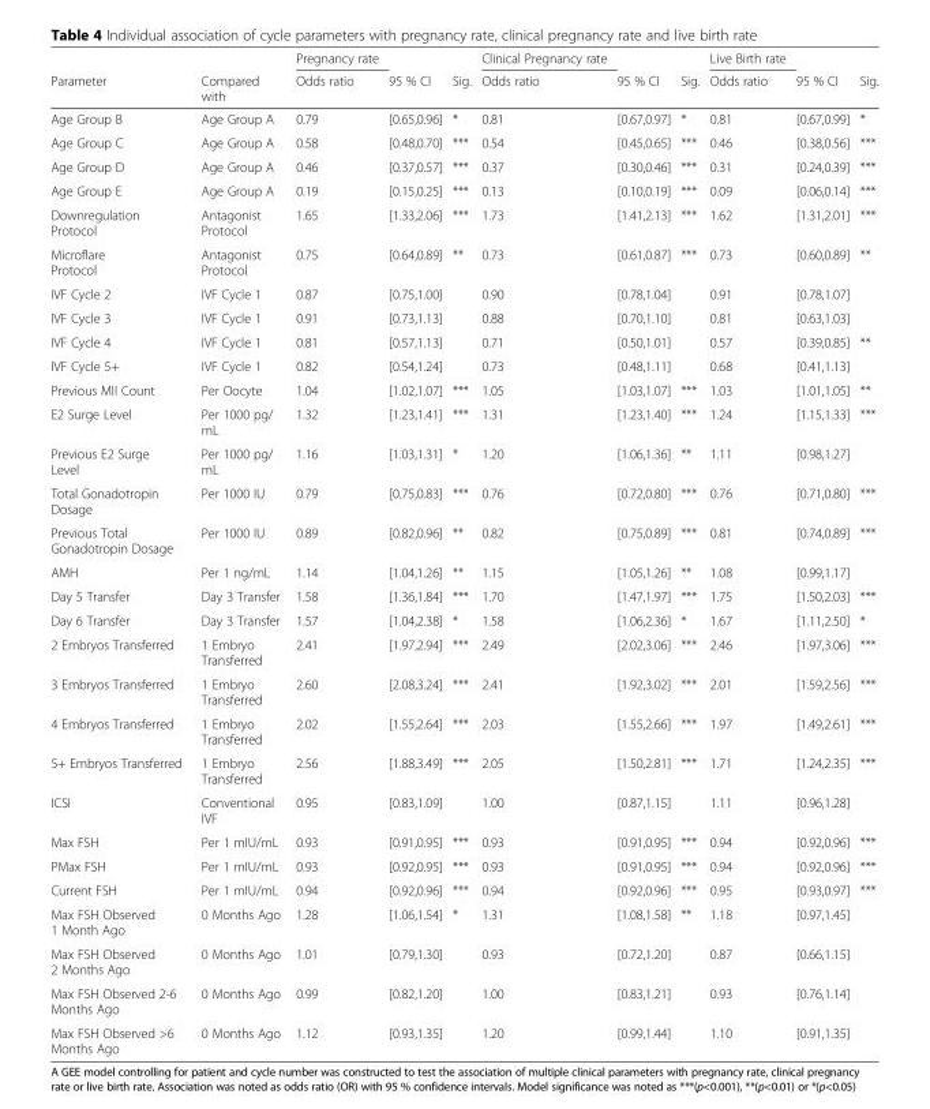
<table><thead><tr><td rowspan="2">Parameter</td><td rowspan="2">Compared with</td><td rowspan="2">Pregnancy rate Odds ratio</td><td rowspan="2">95 % CI</td><td rowspan="2">Sig.</td><td rowspan="2">Clinical Pregnancy rate Odds ratio</td><td rowspan="2">95 % CI</td><td rowspan="2">Sig.</td><td rowspan="2">Live Birth rate Odds ratio</td><td rowspan="2">95 % CI</td><td rowspan="2">Sig.</td></tr><tr></tr></thead><tbody><tr><td>Age Group B</td><td>Age Group A</td><td>0.79</td><td>[0.65,0.96]</td><td>*</td><td>0.81</td><td>[0.67,0.97]</td><td>*</td><td>0.81</td><td>[0.67,0.99]</td><td>*</td></tr><tr><td>Age Group C</td><td>Age Group A</td><td>0.58</td><td>[0.48,0.70]</td><td>***</td><td>0.54</td><td>[0.45,0.65]</td><td>***</td><td>0.46</td><td>[0.38,0.56]</td><td>***</td></tr><tr><td>Age Group D</td><td>Age Group A</td><td>0.46</td><td>[0.37,0.57]</td><td>***</td><td>0.37</td><td>[0.30,0.46]</td><td>***</td><td>0.31</td><td>[0.24,0.39]</td><td>***</td></tr><tr><td>Age Group E</td><td>Age Group A</td><td>0.19</td><td>[0.15,0.25]</td><td>***</td><td>0.13</td><td>[0.10,0.19]</td><td>***</td><td>0.09</td><td>[0.06,0.14]</td><td>***</td></tr><tr><td>Downregulation Protocol</td><td>Antagonist Protocol</td><td>1.65</td><td>[1.33,2.06]</td><td>***</td><td>1.73</td><td>[1.41,2.13]</td><td>***</td><td>1.62</td><td>[1.31,2.01]</td><td>***</td></tr><tr><td>Microflare Protocol</td><td>Antagonist Protocol</td><td>0.75</td><td>[0.64,0.89]</td><td>**</td><td>0.73</td><td>[0.61,0.87]</td><td>***</td><td>0.73</td><td>[0.60,0.89]</td><td>**</td></tr><tr><td>IVF Cycle 2</td><td>IVF Cycle 1</td><td>0.87</td><td>[0.75,1.00]</td><td></td><td>0.90</td><td>[0.78,1.04]</td><td></td><td>0.91</td><td>[0.78,1.07]</td><td></td></tr><tr><td>IVF Cycle 3</td><td>IVF Cycle 1</td><td>0.91</td><td>[0.73,1.13]</td><td></td><td>0.88</td><td>[0.70,1.10]</td><td></td><td>0.81</td><td>[0.63,1.03]</td><td></td></tr><tr><td>IVF Cycle 4</td><td>IVF Cycle 1</td><td>0.81</td><td>[0.57,1.13]</td><td></td><td>0.71</td><td>[0.50,1.01]</td><td></td><td>0.57</td><td>[0.39,0.85]</td><td>**</td></tr><tr><td>IVF Cycle 5+</td><td>IVF Cycle 1</td><td>0.82</td><td>[0.54,1.24]</td><td></td><td>0.73</td><td>[0.48,1.11]</td><td></td><td>0.68</td><td>[0.41,1.13]</td><td></td></tr><tr><td>Previous MII Count</td><td>Per Oocyte</td><td>1.04</td><td>[1.02,1.07]</td><td>***</td><td>1.05</td><td>[1.03,1.07]</td><td>***</td><td>1.03</td><td>[1.01,1.05]</td><td>**</td></tr><tr><td>E2 Surge Level</td><td>Per 1000 pg/ mL</td><td>1.32</td><td>[1.23,1.41]</td><td>***</td><td>1.31</td><td>[1.23,1.40]</td><td>***</td><td>1.24</td><td>[1.15,1.33]</td><td>***</td></tr><tr><td>Previous E2 Surge Level</td><td>Per 1000 pg/ mL</td><td>1.16</td><td>[1.03,1.31]</td><td>*</td><td>1.20</td><td>[1.06,1.36]</td><td>**</td><td>1.11</td><td>[0.98,1.27]</td><td></td></tr><tr><td>Total Gonadotropin Dosage</td><td>Per 1000 IU</td><td>0.79</td><td>[0.75,0.83]</td><td>***</td><td>0.76</td><td>[0.72,0.80]</td><td>***</td><td>0.76</td><td>[0.71,0.80]</td><td>***</td></tr><tr><td>Previous Total Gonadotropin Dosage</td><td>Per 1000 IU</td><td>0.89</td><td>[0.82,0.96]</td><td>**</td><td>0.82</td><td>[0.75,0.89]</td><td>***</td><td>0.81</td><td>[0.74,0.89]</td><td>***</td></tr><tr><td>AMH</td><td>Per 1 ng/mL</td><td>1.14</td><td>[1.04,1.26]</td><td>**</td><td>1.15</td><td>[1.05,1.26]</td><td>**</td><td>1.08</td><td>[0.99,1.17]</td><td></td></tr><tr><td>Day 5 Transfer</td><td>Day 3 Transfer</td><td>1.58</td><td>[1.36,1.84]</td><td>***</td><td>1.70</td><td>[1.47,1.97]</td><td>***</td><td>1.75</td><td>[1.50,2.03]</td><td>***</td></tr><tr><td>Day 6 Transfer</td><td>Day 3 Transfer</td><td>1.57</td><td>[1.04,2.38]</td><td>*</td><td>1.58</td><td>[1.06,2.36]</td><td>*</td><td>1.67</td><td>[1.11,2.50]</td><td>*</td></tr><tr><td>2 Embryos Transferred</td><td>1 Embryo Transferred</td><td>2.41</td><td>[1.97,2.94]</td><td>***</td><td>2.49</td><td>[2.02,3.06]</td><td>***</td><td>2.46</td><td>[1.97,3.06]</td><td>***</td></tr><tr><td>3 Embryos Transferred</td><td>1 Embryo Transferred</td><td>2.60</td><td>[2.08,3.24]</td><td>***</td><td>2.41</td><td>[1.92,3.02]</td><td>***</td><td>2.01</td><td>[1.59,2.56]</td><td>***</td></tr><tr><td>4 Embryos Transferred</td><td>1 Embryo Transferred</td><td>2.02</td><td>[1.55,2.64]</td><td>***</td><td>2.03</td><td>[1.55,2.66]</td><td>***</td><td>1.97</td><td>[1.49,2.61]</td><td>***</td></tr><tr><td>5+ Embryos Transferred</td><td>1 Embryo Transferred</td><td>2.56</td><td>[1.88,3.49]</td><td>***</td><td>2.05</td><td>[1.50,2.81]</td><td>***</td><td>1.71</td><td>[1.24,2.35]</td><td>***</td></tr><tr><td>ICSI</td><td>Conventional IVF</td><td>0.95</td><td>[0.83,1.09]</td><td></td><td>1.00</td><td>[0.87,1.15]</td><td></td><td>1.11</td><td>[0.96,1.28]</td><td></td></tr><tr><td>Max FSH</td><td>Per 1 mIU/mL</td><td>0.93</td><td>[0.91,0.95]</td><td>***</td><td>0.93</td><td>[0.91,0.95]</td><td>***</td><td>0.94</td><td>[0.92,0.96]</td><td>***</td></tr><tr><td>PMax FSH</td><td>Per 1 mIU/mL</td><td>0.93</td><td>[0.92,0.95]</td><td>***</td><td>0.93</td><td>[0.91,0.95]</td><td>***</td><td>0.94</td><td>[0.92,0.96]</td><td>***</td></tr><tr><td>Current FSH</td><td>Per 1 mIU/mL</td><td>0.94</td><td>[0.92,0.96]</td><td>***</td><td>0.94</td><td>[0.92,0.96]</td><td>***</td><td>0.95</td><td>[0.93,0.97]</td><td>***</td></tr><tr><td>Max FSH Observed 1 Month Ago</td><td>0 Months Ago</td><td>1.28</td><td>[1.06,1.54]</td><td>*</td><td>1.31</td><td>[1.08,1.58]</td><td>**</td><td>1.18</td><td>[0.97,1.45]</td><td></td></tr><tr><td>Max FSH Observed 2 Months Ago</td><td>0 Months Ago</td><td>1.01</td><td>[0.79,1.30]</td><td></td><td>0.93</td><td>[0.72,1.20]</td><td></td><td>0.87</td><td>[0.66,1.15]</td><td></td></tr><tr><td>Max FSH Observed 2-6 Months Ago</td><td>0 Months Ago</td><td>0.99</td><td>[0.82,1.20]</td><td></td><td>1.00</td><td>[0.83,1.21]</td><td></td><td>0.93</td><td>[0.76,1.14]</td><td></td></tr><tr><td>Max FSH Observed &gt;6 Months Ago</td><td>0 Months Ago</td><td>1.12</td><td>[0.93,1.35]</td><td></td><td>1.20</td><td>[0.99,1.44]</td><td></td><td>1.10</td><td>[0.91,1.35]</td><td></td></tr></tbody></table>